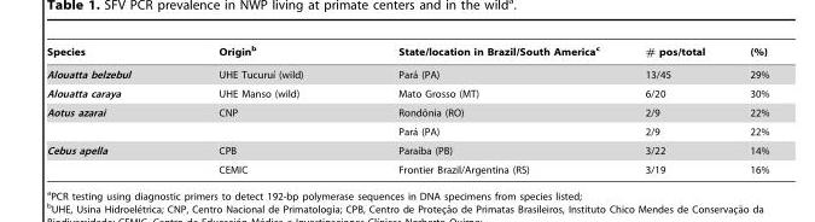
<table><thead><tr><td>Species</td><td>Origin<sup>b</sup></td><td>State/location in Brazil/South America<sup>c</sup></td><td># pos/total</td><td>(%)</td></tr></thead><tbody><tr><td>Alouatta belzebul</td><td>UHE Tucuruı´ (wild)</td><td>Para´ (PA)</td><td>13/45</td><td>29%</td></tr><tr><td>Alouatta caraya</td><td>UHE Manso (wild)</td><td>Mato Grosso (MT)</td><td>6/20</td><td>30%</td></tr><tr><td rowspan="2">Aotus azarai</td><td>CNP</td><td>Rondoˆnia (RO)</td><td>2/9</td><td>22%</td></tr><tr><td></td><td>Para´ (PA)</td><td>2/9</td><td>22%</td></tr><tr><td rowspan="2">Cebus apella</td><td>CPB</td><td>Paraı´ba (PB)</td><td>3/22</td><td>14%</td></tr><tr><td>CEMIC</td><td>Frontier Brazil/Argentina (RS)</td><td>3/19</td><td>16%</td></tr></tbody></table>